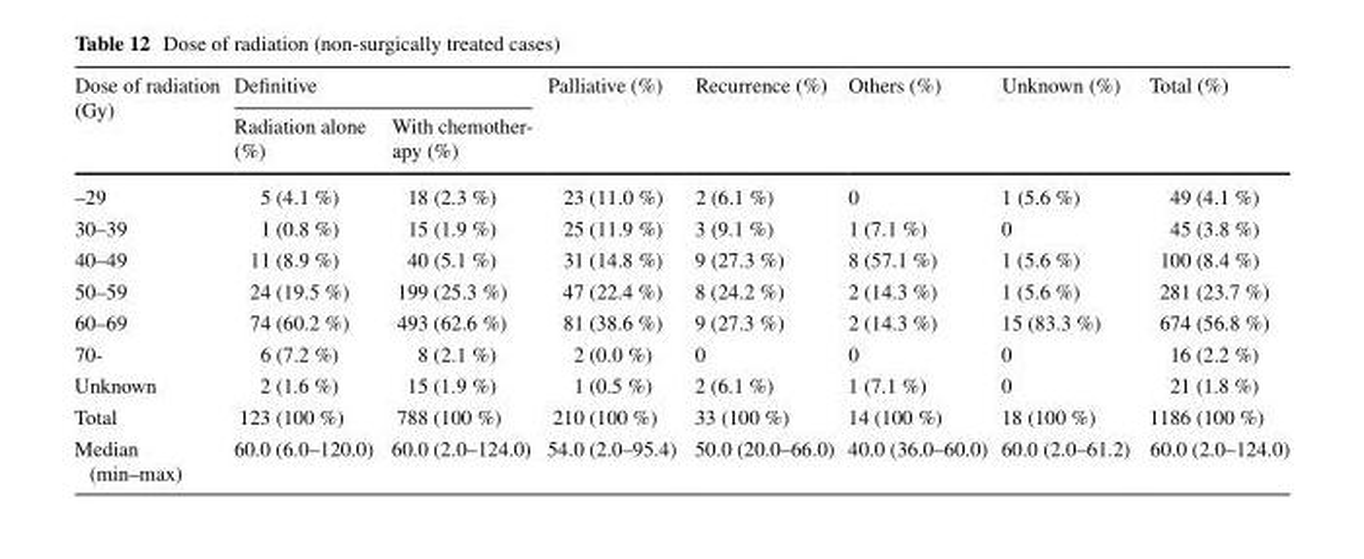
<table><thead><tr><td rowspan="2">Dose of radiation (Gy)</td><td colspan="2">Definitive</td><td rowspan="2">Palliative (%)</td><td rowspan="2">Recurrence (%)</td><td rowspan="2">Others (%)</td><td rowspan="2">Unknown (%)</td><td rowspan="2">Total (%)</td></tr><tr><td>Radiation alone (%)</td><td>With chemother- apy (%)</td></tr></thead><tbody><tr><td>–29</td><td>5 (4.1 %)</td><td>18 (2.3 %)</td><td>23 (11.0 %)</td><td>2 (6.1 %)</td><td>0</td><td>1 (5.6 %)</td><td>49 (4.1 %)</td></tr><tr><td>30–39</td><td>1 (0.8 %)</td><td>15 (1.9 %)</td><td>25 (11.9 %)</td><td>3 (9.1 %)</td><td>1 (7.1 %)</td><td>0</td><td>45 (3.8 %)</td></tr><tr><td>40–49</td><td>11 (8.9 %)</td><td>40 (5.1 %)</td><td>31 (14.8 %)</td><td>9 (27.3 %)</td><td>8 (57.1 %)</td><td>1 (5.6 %)</td><td>100 (8.4 %)</td></tr><tr><td>50–59</td><td>24 (19.5 %)</td><td>199 (25.3 %)</td><td>47 (22.4 %)</td><td>8 (24.2 %)</td><td>2 (14.3 %)</td><td>1 (5.6 %)</td><td>281 (23.7 %)</td></tr><tr><td>60–69</td><td>74 (60.2 %)</td><td>493 (62.6 %)</td><td>81 (38.6 %)</td><td>9 (27.3 %)</td><td>2 (14.3 %)</td><td>15 (83.3 %)</td><td>674 (56.8 %)</td></tr><tr><td>70-</td><td>6 (7.2 %)</td><td>8 (2.1 %)</td><td>2 (0.0 %)</td><td>0</td><td>0</td><td>0</td><td>16 (2.2 %)</td></tr><tr><td>Unknown</td><td>2 (1.6 %)</td><td>15 (1.9 %)</td><td>1 (0.5 %)</td><td>2 (6.1 %)</td><td>1 (7.1 %)</td><td>0</td><td>21 (1.8 %)</td></tr><tr><td>Total</td><td>123 (100 %)</td><td>788 (100 %)</td><td>210 (100 %)</td><td>33 (100 %)</td><td>14 (100 %)</td><td>18 (100 %)</td><td>1186 (100 %)</td></tr><tr><td>Median (min–max)</td><td>60.0 (6.0–120.0)</td><td>60.0 (2.0–124.0)</td><td>54.0 (2.0–95.4)</td><td>50.0 (20.0–66.0)</td><td>40.0 (36.0–60.0)</td><td>60.0 (2.0–61.2)</td><td>60.0 (2.0–124.0)</td></tr></tbody></table>